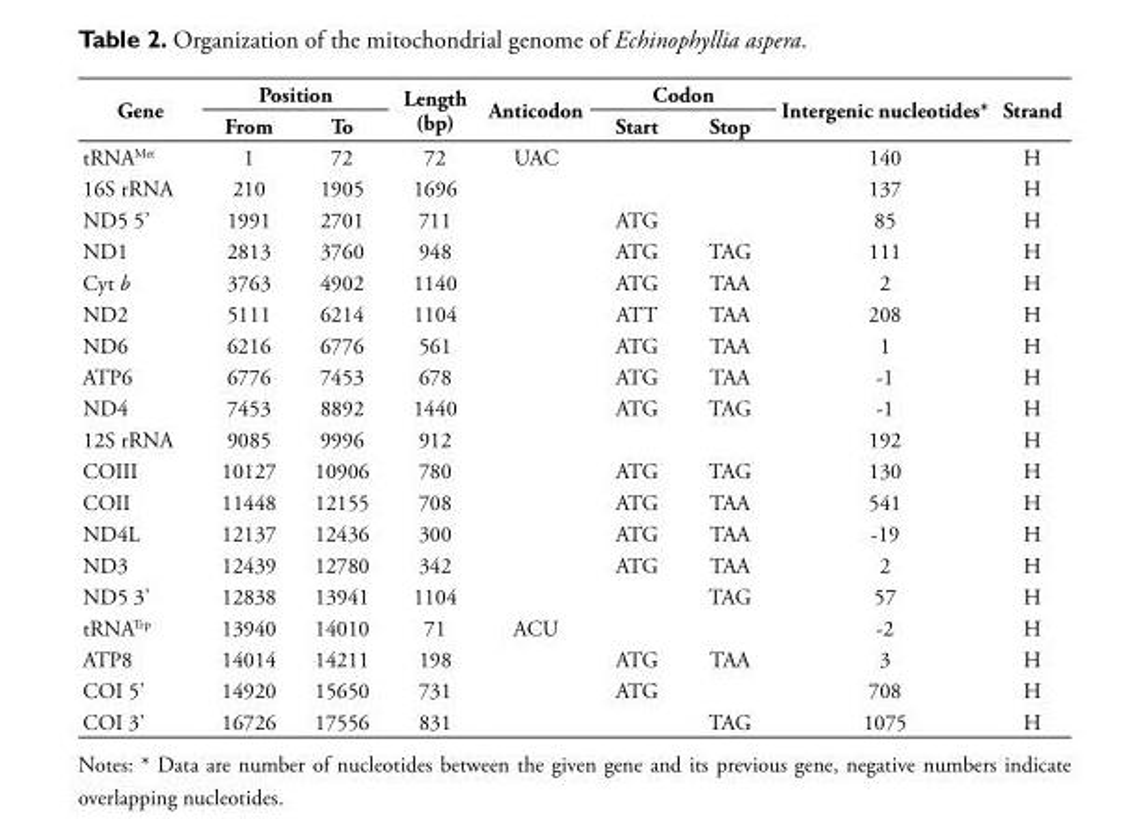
<table><thead><tr><td rowspan="2">Gene</td><td colspan="2">Position</td><td rowspan="2">Length (bp)</td><td rowspan="2">Anticodon</td><td colspan="2">Codon</td><td rowspan="2">Intergenic nucleotides*</td><td rowspan="2">Strand</td></tr><tr><td>From</td><td>To</td><td>Start</td><td>Stop</td></tr></thead><tbody><tr><td>tRNA<sup>Met</sup></td><td>1</td><td>72</td><td>72</td><td>UAC</td><td></td><td></td><td>140</td><td>H</td></tr><tr><td>16S rRNA</td><td>210</td><td>1905</td><td>1696</td><td></td><td></td><td></td><td>137</td><td>H</td></tr><tr><td>ND5 5’</td><td>1991</td><td>2701</td><td>711</td><td></td><td>ATG</td><td></td><td>85</td><td>H</td></tr><tr><td>ND1</td><td>2813</td><td>3760</td><td>948</td><td></td><td>ATG</td><td>TAG</td><td>111</td><td>H</td></tr><tr><td>Cyt b</td><td>3763</td><td>4902</td><td>1140</td><td></td><td>ATG</td><td>TAA</td><td>2</td><td>H</td></tr><tr><td>ND2</td><td>5111</td><td>6214</td><td>1104</td><td></td><td>ATT</td><td>TAA</td><td>208</td><td>H</td></tr><tr><td>ND6</td><td>6216</td><td>6776</td><td>561</td><td></td><td>ATG</td><td>TAA</td><td>1</td><td>H</td></tr><tr><td>ATP6</td><td>6776</td><td>7453</td><td>678</td><td></td><td>ATG</td><td>TAA</td><td>-1</td><td>H</td></tr><tr><td>ND4</td><td>7453</td><td>8892</td><td>1440</td><td></td><td>ATG</td><td>TAG</td><td>-1</td><td>H</td></tr><tr><td>12S rRNA</td><td>9085</td><td>9996</td><td>912</td><td></td><td></td><td></td><td>192</td><td>H</td></tr><tr><td>COIII</td><td>10127</td><td>10906</td><td>780</td><td></td><td>ATG</td><td>TAG</td><td>130</td><td>H</td></tr><tr><td>COII</td><td>11448</td><td>12155</td><td>708</td><td></td><td>ATG</td><td>TAA</td><td>541</td><td>H</td></tr><tr><td>ND4L</td><td>12137</td><td>12436</td><td>300</td><td></td><td>ATG</td><td>TAA</td><td>-19</td><td>H</td></tr><tr><td>ND3</td><td>12439</td><td>12780</td><td>342</td><td></td><td>ATG</td><td>TAA</td><td>2</td><td>H</td></tr><tr><td>ND5 3’</td><td>12838</td><td>13941</td><td>1104</td><td></td><td></td><td>TAG</td><td>57</td><td>H</td></tr><tr><td>tRNA<sup>Trp</sup></td><td>13940</td><td>14010</td><td>71</td><td>ACU</td><td></td><td></td><td>-2</td><td>H</td></tr><tr><td>ATP8</td><td>14014</td><td>14211</td><td>198</td><td></td><td>ATG</td><td>TAA</td><td>3</td><td>H</td></tr><tr><td>COI 5’</td><td>14920</td><td>15650</td><td>731</td><td></td><td>ATG</td><td></td><td>708</td><td>H</td></tr><tr><td>COI 3’</td><td>16726</td><td>17556</td><td>831</td><td></td><td></td><td>TAG</td><td>1075</td><td>H</td></tr></tbody></table>